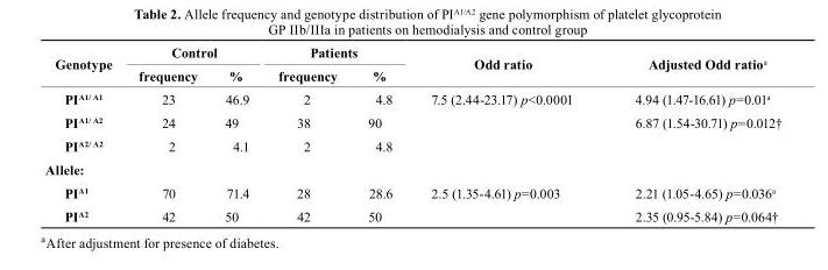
<table><thead><tr><td rowspan="2">Genotype</td><td colspan="2">control</td><td colspan="2">Patients</td><td rowspan="2">Odd ratio</td><td rowspan="2">Adjusted Odd ratio<sup>a</sup></td></tr><tr><td>frequency</td><td>%</td><td>frequency</td><td>%</td></tr></thead><tbody><tr><td>PI<sup>A1/ A1</sup></td><td>23</td><td>46.9</td><td>2</td><td>4.8</td><td>7.5 (2.44-23.17) p&lt;0.0001</td><td>4.94 (1.47-16.61) p=0.01<sup>a</sup></td></tr><tr><td>PI<sup>A1/ A2</sup></td><td>24</td><td>49</td><td>38</td><td>90</td><td></td><td>6.87 (1.54-30.71) p=0.012†</td></tr><tr><td>PI<sup>A2/ A2</sup></td><td>2</td><td>4.1</td><td>2</td><td>4.8</td><td></td><td></td></tr><tr><td colspan="7">Allele:</td></tr><tr><td>PI<sup>A1</sup></td><td>70</td><td>71.4</td><td>28</td><td>28.6</td><td>2.5 (1.35-4.61) p=0.003</td><td>2.21 (1.05-4.65) p=0.036<sup>a</sup></td></tr><tr><td>PI<sup>A2</sup></td><td>42</td><td>50</td><td>42</td><td>50</td><td></td><td>2.35 (0.95-5.84) p=0.064†</td></tr></tbody></table>